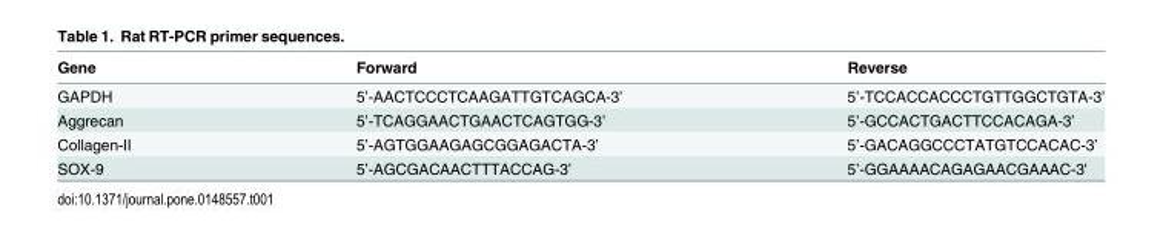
<table><thead><tr><td>Gene</td><td>Forward</td><td>Reverse</td></tr></thead><tbody><tr><td>GAPDH</td><td>5’-AACTCCCTCAAGATTGTCAGCA-3’</td><td>5’-TCCACCACCCTGTTGGCTGTA-3’</td></tr><tr><td>Aggrecan</td><td>5’-TCAGGAACTGAACTCAGTGG-3’</td><td>5’-GCCACTGACTTCCACAGA-3’</td></tr><tr><td>Collagen-II</td><td>5’-AGTGGAAGAGCGGAGACTA-3’</td><td>5’-GACAGGCCCTATGTCCACAC-3’</td></tr><tr><td>SOX-9</td><td>5’-AGCGACAACTTTACCAG-3’</td><td>5’-GGAAAACAGAGAACGAAAC-3&#x27;</td></tr></tbody></table>